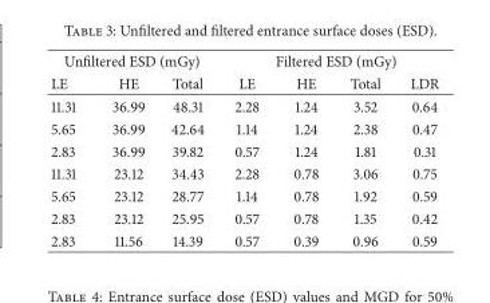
<table><thead><tr><td colspan="3">Unfiltered ESD (mGy)</td><td colspan="4">Filtered ESD (mGy)</td></tr><tr><td>LE</td><td>HE</td><td>Total</td><td>LE</td><td>HE</td><td>Total</td><td>LDR</td></tr></thead><tbody><tr><td>11.31</td><td>36.99</td><td>48.31</td><td>2.28</td><td>1.24</td><td>3.52</td><td>0.64</td></tr><tr><td>5.65</td><td>36.99</td><td>42.64</td><td>1.14</td><td>1.24</td><td>2.38</td><td>0.47</td></tr><tr><td>2.83</td><td>36.99</td><td>39.82</td><td>0.57</td><td>1.24</td><td>1.81</td><td>0.31</td></tr><tr><td>11.31</td><td>23.12</td><td>34.43</td><td>2.28</td><td>0.78</td><td>3.06</td><td>0.75</td></tr><tr><td>5.65</td><td>23.12</td><td>28.77</td><td>1.14</td><td>0.78</td><td>1.92</td><td>0.59</td></tr><tr><td>2.83</td><td>23.12</td><td>25.95</td><td>0.57</td><td>0.78</td><td>1.35</td><td>0.42</td></tr><tr><td>2.83</td><td>11.56</td><td>14.39</td><td>0.57</td><td>0.39</td><td>0.96</td><td>0.59</td></tr></tbody></table>